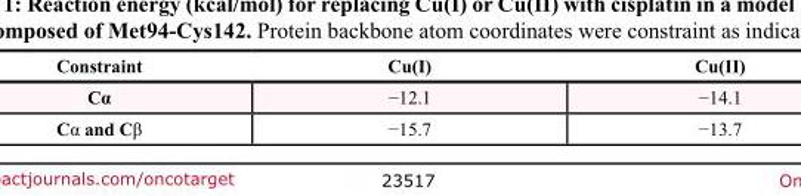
<table><thead><tr><td>Constraint</td><td>Cu(I)</td><td>Cu(II)</td></tr></thead><tbody><tr><td>Cα</td><td>−12.1</td><td>−14.1</td></tr><tr><td>Cα and Cβ</td><td>−15.7</td><td>−13.7</td></tr></tbody></table>